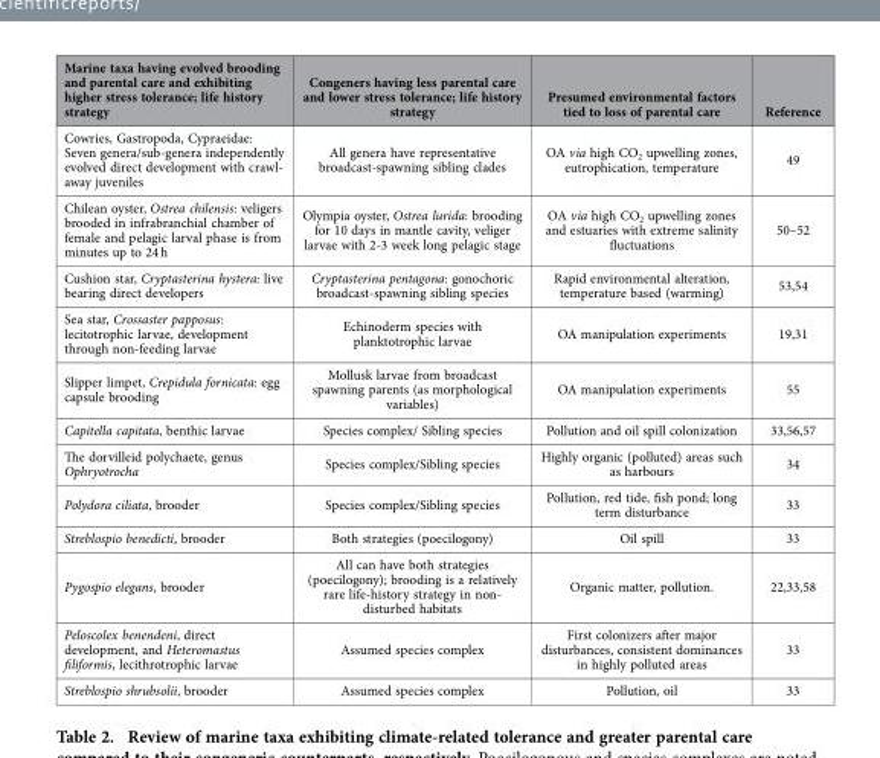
<table><thead><tr><td>Marine taxa having evolved brooding and parental care and exhibiting higher stress tolerance; life history strategy</td><td>Congeners having less parental care and lower stress tolerance; life history strategy</td><td>Presumed environmental factors tied to loss of parental care</td><td>Reference</td></tr></thead><tbody><tr><td>Cowries, Gastropoda, Cypraeidae: Seven genera/sub-genera independently evolved direct development with crawl- away juveniles</td><td>All genera have representative broadcast-spawning sibling clades</td><td>OA via high CO<sub>2</sub> upwelling zones, eutrophication, temperature</td><td>49</td></tr><tr><td>Chilean oyster, Ostrea chilensis: veligers brooded in infrabranchial chamber of female and pelagic larval phase is from minutes up to 24 h</td><td>Olympia oyster, Ostrea lurida: brooding for 10 days in mantle cavity, veliger larvae with 2-3 week long pelagic stage</td><td>OA via high CO<sub>2</sub> upwelling zones and estuaries with extreme salinity fluctuations</td><td>50–52</td></tr><tr><td>Cushion star, Cryptasterina hystera: live bearing direct developers</td><td>Cryptasterina pentagona: gonochoric broadcast-spawning sibling species</td><td>Rapid environmental alteration, temperature based (warming)</td><td>53,54</td></tr><tr><td>Sea star, Crossaster papposus: lecitotrophic larvae, development through non-feeding larvae</td><td>Echinoderm species with planktotrophic larvae</td><td>OA manipulation experiments</td><td>19,31</td></tr><tr><td>Slipper limpet, Crepidula fornicata: egg capsule brooding</td><td>Mollusk larvae from broadcast spawning parents (as morphological variables)</td><td>OA manipulation experiments</td><td>55</td></tr><tr><td>Capitella capitata, benthic larvae</td><td>Species complex/ Sibling species</td><td>Pollution and oil spill colonization</td><td>33,56,57</td></tr><tr><td>The dorvilleid polychaete, genus Ophryotrocha</td><td>Species complex/Sibling species</td><td>Highly organic (polluted) areas such as harbours</td><td>34</td></tr><tr><td>Polydora ciliata, brooder</td><td>Species complex/Sibling species</td><td>Pollution, red tide, fish pond; long term disturbance</td><td>33</td></tr><tr><td>Streblospio benedicti, brooder</td><td>Both strategies (poecilogony)</td><td>Oil spill</td><td>33</td></tr><tr><td>Pygospio elegans, brooder</td><td>All can have both strategies (poecilogony); brooding is a relatively rare life-history strategy in non- disturbed habitats</td><td>Organic matter, pollution.</td><td>22,33,58</td></tr><tr><td>Peloscolex benendeni, direct development, and Heteromastus filiformis, lecithrotrophic larvae</td><td>Assumed species complex</td><td>First colonizers after major disturbances, consistent dominances in highly polluted areas</td><td>33</td></tr><tr><td>Streblospio shrubsolii, brooder</td><td>Assumed species complex</td><td>Pollution, oil</td><td>33</td></tr></tbody></table>